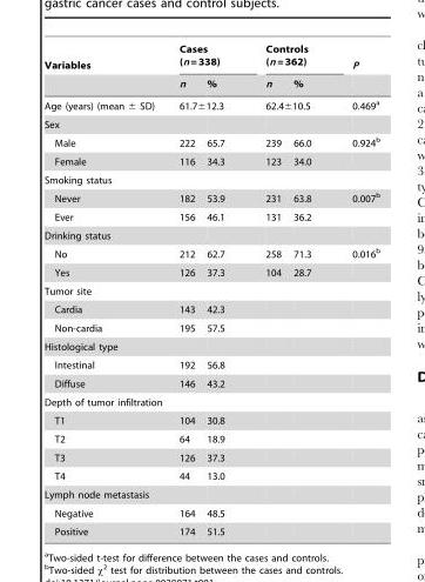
<table><thead><tr><td rowspan="2">Variables</td><td colspan="2">Cases (n = 338)</td><td colspan="2">Controls (n = 362)</td><td rowspan="2">P</td></tr><tr><td>n</td><td>%</td><td>n</td><td>%</td></tr></thead><tbody><tr><td>Age (years) (mean ± SD)</td><td colspan="2">61.7±12.3</td><td colspan="2">62.4±10.5</td><td>0.469<sup>a</sup></td></tr><tr><td colspan="6">Sex</td></tr><tr><td>Male</td><td>222</td><td>65.7</td><td>239</td><td>66.0</td><td>0.924<sup>b</sup></td></tr><tr><td>Female</td><td>116</td><td>34.3</td><td>123</td><td>34.0</td><td></td></tr><tr><td colspan="6">Smoking status</td></tr><tr><td>Never</td><td>182</td><td>53.9</td><td>231</td><td>63.8</td><td>0.007<sup>b</sup></td></tr><tr><td>Ever</td><td>156</td><td>46.1</td><td>131</td><td>36.2</td><td></td></tr><tr><td colspan="6">Drinking status</td></tr><tr><td>No</td><td>212</td><td>62.7</td><td>258</td><td>71.3</td><td>0.016<sup>b</sup></td></tr><tr><td>Yes</td><td>126</td><td>37.3</td><td>104</td><td>28.7</td><td></td></tr><tr><td colspan="6">Tumor site</td></tr><tr><td>Cardia</td><td>143</td><td>42.3</td><td></td><td></td><td></td></tr><tr><td>Non-cardia</td><td>195</td><td>57.5</td><td></td><td></td><td></td></tr><tr><td colspan="6">Histological type</td></tr><tr><td>Intestinal</td><td>192</td><td>56.8</td><td></td><td></td><td></td></tr><tr><td>Diffuse</td><td>146</td><td>43.2</td><td></td><td></td><td></td></tr><tr><td colspan="6">Depth of tumor infiltration</td></tr><tr><td>T1</td><td>104</td><td>30.8</td><td></td><td></td><td></td></tr><tr><td>T2</td><td>64</td><td>18.9</td><td></td><td></td><td></td></tr><tr><td>T3</td><td>126</td><td>37.3</td><td></td><td></td><td></td></tr><tr><td>T4</td><td>44</td><td>13.0</td><td></td><td></td><td></td></tr><tr><td colspan="6">Lymph node metastasis</td></tr><tr><td>Negative</td><td>164</td><td>48.5</td><td></td><td></td><td></td></tr><tr><td>Positive</td><td>174</td><td>51.5</td><td></td><td></td><td></td></tr></tbody></table>